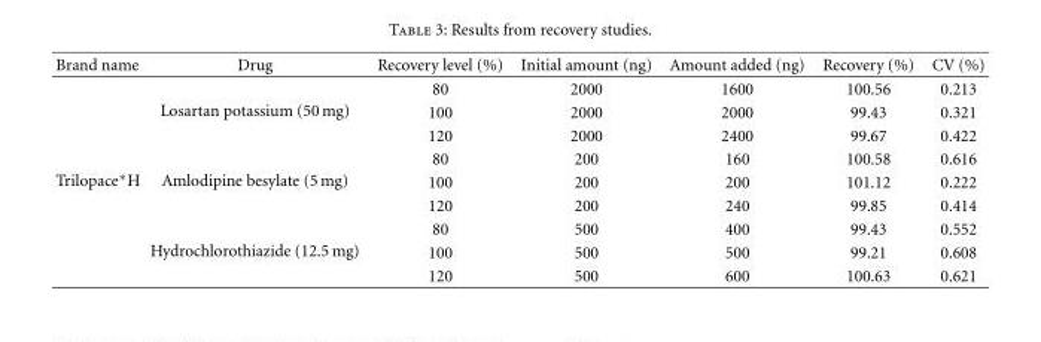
<table><thead><tr><td>Brand name</td><td>Drug</td><td>Recovery level (%)</td><td>Initial amount (ng)</td><td>Amount added (ng)</td><td>Recovery (%)</td><td>CV (%)</td></tr></thead><tbody><tr><td rowspan="9">Trilopace∗H</td><td rowspan="3">Losartan potassium (50 mg)</td><td>80</td><td>2000</td><td>1600</td><td>100.56</td><td>0.213</td></tr><tr><td>100</td><td>2000</td><td>2000</td><td>99.43</td><td>0.321</td></tr><tr><td>120</td><td>2000</td><td>2400</td><td>99.67</td><td>0.422</td></tr><tr><td rowspan="3">Amlodipine besylate (5 mg)</td><td>80</td><td>200</td><td>160</td><td>100.58</td><td>0.616</td></tr><tr><td>100</td><td>200</td><td>200</td><td>101.12</td><td>0.222</td></tr><tr><td>120</td><td>200</td><td>240</td><td>99.85</td><td>0.414</td></tr><tr><td rowspan="3">Hydrochlorothiazide (12.5 mg)</td><td>80</td><td>500</td><td>400</td><td>99.43</td><td>0.552</td></tr><tr><td>100</td><td>500</td><td>500</td><td>99.21</td><td>0.608</td></tr><tr><td>120</td><td>500</td><td>600</td><td>100.63</td><td>0.621</td></tr></tbody></table>